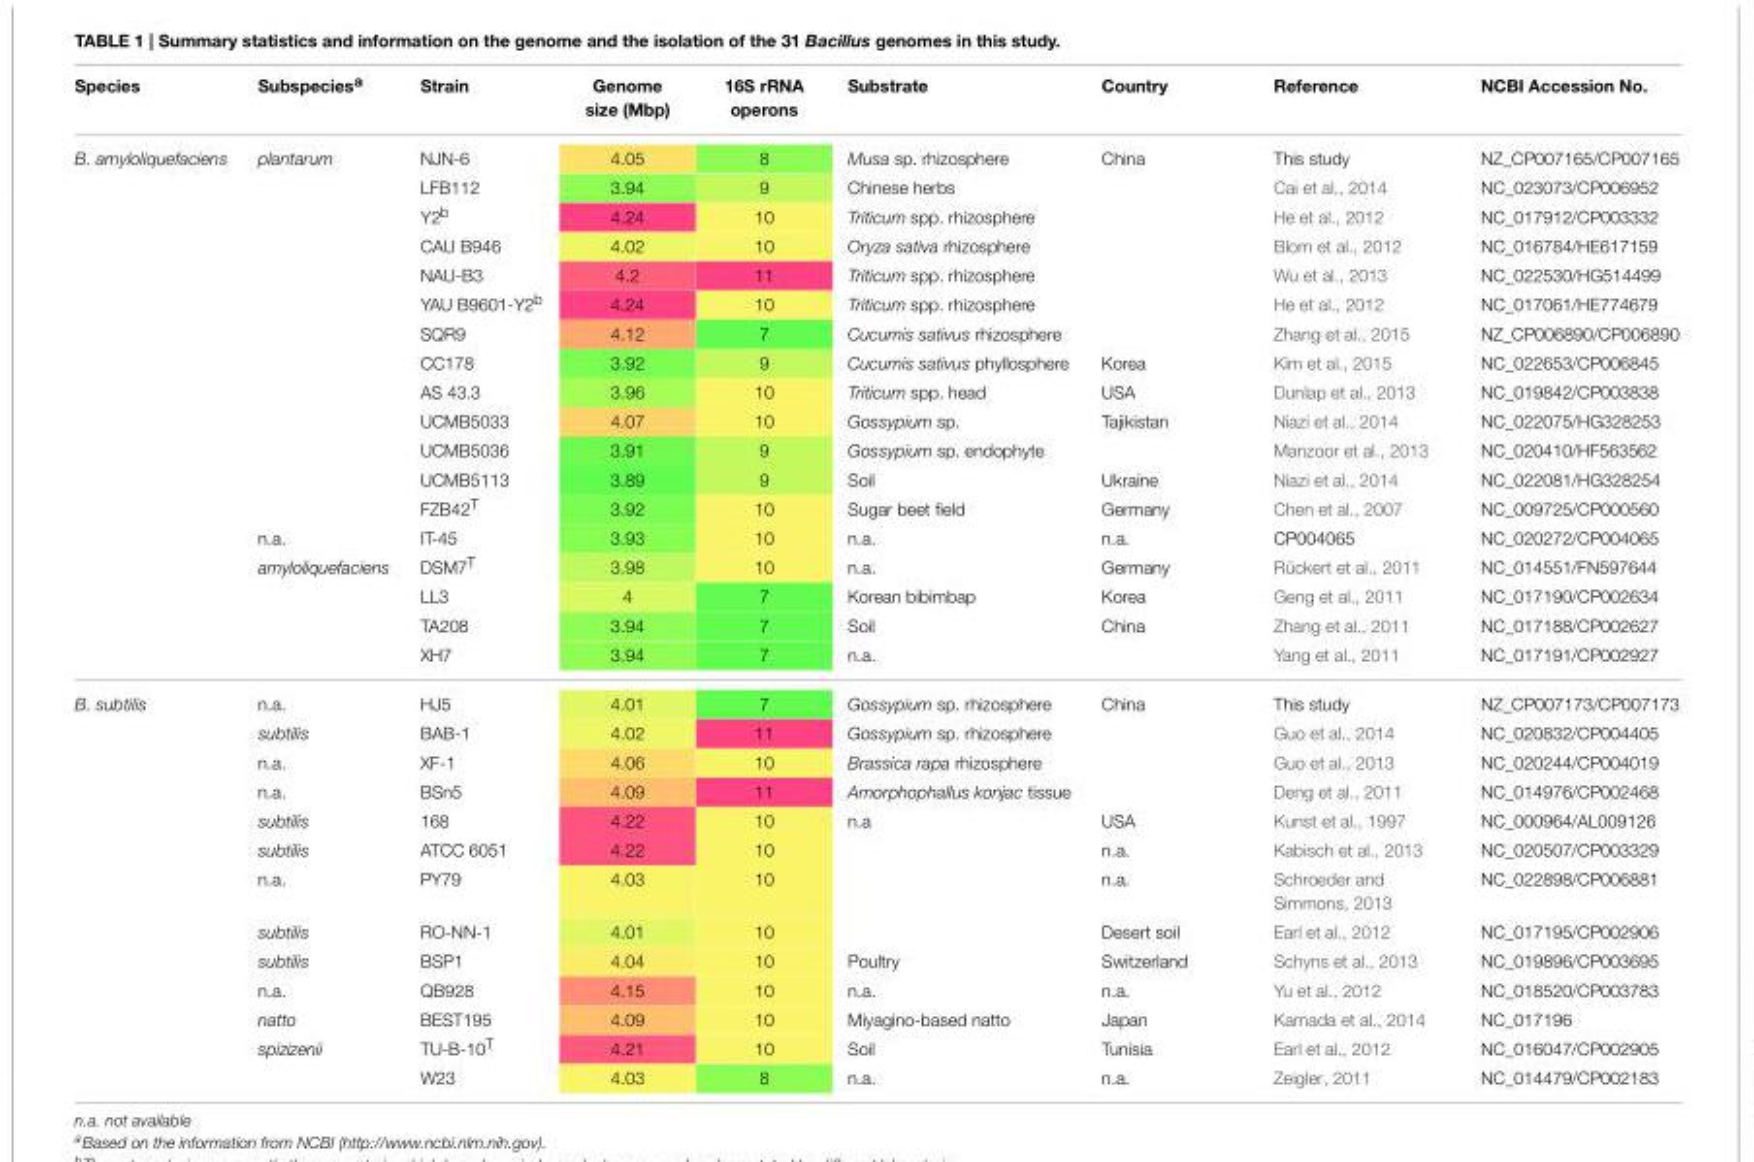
<table><thead><tr><td>Species</td><td>Subspecies<sup>a</sup></td><td>Strain</td><td>Genome size (Mbp)</td><td>16S rRNA operons</td><td>Substrate</td><td>Country</td><td>Reference</td><td>NCBI Accession No.</td></tr></thead><tbody><tr><td rowspan="18">B. amyloliquefaciens</td><td>plantarum</td><td>NJN-6</td><td>4.05</td><td>8</td><td>Musa sp. rhizosphere</td><td>China</td><td>This study</td><td>NZ_CP007165/CP007165</td></tr><tr><td></td><td>LFB112</td><td>3.94</td><td>9</td><td>Chinese herbs</td><td></td><td>Cai et al., 2014</td><td>NC_023073/CP006952</td></tr><tr><td></td><td>Y2<sup>b</sup></td><td>4.24</td><td>10</td><td>Triticum spp. rhizosphere</td><td></td><td>He et al., 2012</td><td>NC_017912/CP003332</td></tr><tr><td></td><td>CAU B946</td><td>4.02</td><td>10</td><td>Oryza sativa rhizosphere</td><td></td><td>Blom et al., 2012</td><td>NC_016784/HE617159</td></tr><tr><td></td><td>NAU-B3</td><td>4.2</td><td>11</td><td>Triticum spp. rhizosphere</td><td></td><td>Wu et al., 2013</td><td>NC_022530/HG514499</td></tr><tr><td></td><td>YAU B9601-Y2<sup>b</sup></td><td>4.24</td><td>10</td><td>Triticum spp. rhizosphere</td><td></td><td>He et al., 2012</td><td>NC_017061/HE774679</td></tr><tr><td></td><td>SQR9</td><td>4.12</td><td>7</td><td>Cucumis sativus rhizosphere</td><td></td><td>Zhang et al., 2015</td><td>NZ_CP006890/CP006890</td></tr><tr><td></td><td>CC178</td><td>3.92</td><td>9</td><td>Cucumis sativus phyllosphere</td><td>Korea</td><td>Kim et al., 2015</td><td>NC_022653/CP006845</td></tr><tr><td></td><td>AS 43.3</td><td>3.96</td><td>10</td><td>Triticum spp. head</td><td>USA</td><td>Dunlap et al., 2013</td><td>NC_019842/CP003838</td></tr><tr><td></td><td>UCMB5033</td><td>4.07</td><td>10</td><td>Gossypium sp.</td><td>Tajikistan</td><td>Niazi et al., 2014</td><td>NC_022075/HG328253</td></tr><tr><td></td><td>UCMB5036</td><td>3.91</td><td>9</td><td>Gossypium sp. endophyte</td><td></td><td>Manzoor et al., 2013</td><td>NC_020410/HF563562</td></tr><tr><td></td><td>UCMB5113</td><td>3.89</td><td>9</td><td>Soil</td><td>Ukraine</td><td>Niazi et al., 2014</td><td>NC_022081/HG328254</td></tr><tr><td></td><td>FZB42<sup>T</sup></td><td>3.92</td><td>10</td><td>Sugar beet field</td><td>Germany</td><td>Chen et al., 2007</td><td>NC_009725/CP000560</td></tr><tr><td>n.a.</td><td>IT-45</td><td>3.93</td><td>10</td><td>n.a.</td><td>n.a.</td><td>CP004065</td><td>NC_020272/CP004065</td></tr><tr><td>amyloliquefaciens</td><td>DSM7<sup>T</sup></td><td>3.98</td><td>10</td><td>n.a.</td><td>Germany</td><td>Rückert et al., 2011</td><td>NC_014551/FN597644</td></tr><tr><td></td><td>LL3</td><td>4</td><td>7</td><td>Korean bibimbap</td><td>Korea</td><td>Geng et al., 2011</td><td>NC_017190/CP002634</td></tr><tr><td></td><td>TA208</td><td>3.94</td><td>7</td><td>Soil</td><td>China</td><td>Zhang et al., 2011</td><td>NC_017188/CP002627</td></tr><tr><td></td><td>XH7</td><td>3.94</td><td>7</td><td>n.a.</td><td></td><td>Yang et al., 2011</td><td>NC_017191/CP002927</td></tr><tr><td rowspan="13">B. subtilis</td><td>n.a.</td><td>HJ5</td><td>4.01</td><td>7</td><td>Gossypium sp. rhizosphere</td><td>China</td><td>This study</td><td>NZ_CP007173/CP007173</td></tr><tr><td>subtilis</td><td>BAB-1</td><td>4.02</td><td>11</td><td>Gossypium sp. rhizosphere</td><td></td><td>Guo et al., 2014</td><td>NC_020832/CP004405</td></tr><tr><td>n.a.</td><td>XF-1</td><td>4.06</td><td>10</td><td>Brassica rapa rhizosphere</td><td></td><td>Guo et al., 2013</td><td>NC_020244/CP004019</td></tr><tr><td>n.a.</td><td>BSn5</td><td>4.09</td><td>11</td><td>Amorphophallus konjac tissue</td><td></td><td>Deng et al., 2011</td><td>NC_014976/CP002468</td></tr><tr><td>subtilis</td><td>168</td><td>4.22</td><td>10</td><td>n.a</td><td>USA</td><td>Kunst et al., 1997</td><td>NC_000964/AL009126</td></tr><tr><td>subtilis</td><td>ATCC 6051</td><td>4.22</td><td>10</td><td></td><td>n.a.</td><td>Kabisch et al., 2013</td><td>NC_020507/CP003329</td></tr><tr><td>n.a.</td><td>PY79</td><td>4.03</td><td>10</td><td></td><td>n.a.</td><td>Schroeder and Simmons, 2013</td><td>NC_022898/CP006881</td></tr><tr><td>subtilis</td><td>RO-NN-1</td><td>4.01</td><td>10</td><td></td><td>Desert soil</td><td>Earl et al., 2012</td><td>NC_017195/CP002906</td></tr><tr><td>subtilis</td><td>BSP1</td><td>4.04</td><td>10</td><td>Poultry</td><td>Switzerland</td><td>Schyns et al., 2013</td><td>NC_019896/CP003695</td></tr><tr><td>n.a.</td><td>QB928</td><td>4.15</td><td>10</td><td>n.a.</td><td>n.a.</td><td>Yu et al., 2012</td><td>NC_018520/CP003783</td></tr><tr><td>natto</td><td>BEST195</td><td>4.09</td><td>10</td><td>Miyagino-based natto</td><td>Japan</td><td>Kamada et al., 2014</td><td>NC_017196</td></tr><tr><td>spizizenii</td><td>TU-B-10<sup>T</sup></td><td>4.21</td><td>10</td><td>Soil</td><td>Tunisia</td><td>Earl et al., 2012</td><td>NC_016047/CP002905</td></tr><tr><td></td><td>W23</td><td>4.03</td><td>8</td><td>n.a.</td><td>n.a.</td><td>Zeigler, 2011</td><td>NC_014479/CP002183</td></tr></tbody></table>